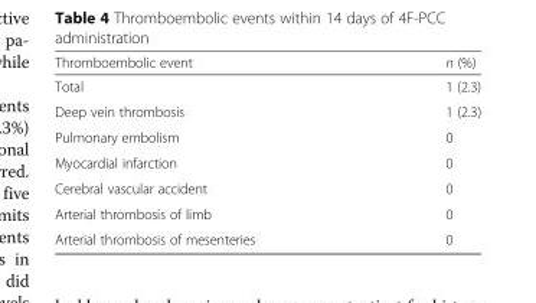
<table><thead><tr><td>Thromboembolic event</td><td>n (%)</td></tr></thead><tbody><tr><td>Total</td><td>1 (2.3)</td></tr><tr><td>Deep vein thrombosis</td><td>1 (2.3)</td></tr><tr><td>Pulmonary embolism</td><td>0</td></tr><tr><td>Myocardial infarction</td><td>0</td></tr><tr><td>Cerebral vascular accident</td><td>0</td></tr><tr><td>Arterial thrombosis of limb</td><td>0</td></tr><tr><td>Arterial thrombosis of mesenteries</td><td>0</td></tr></tbody></table>